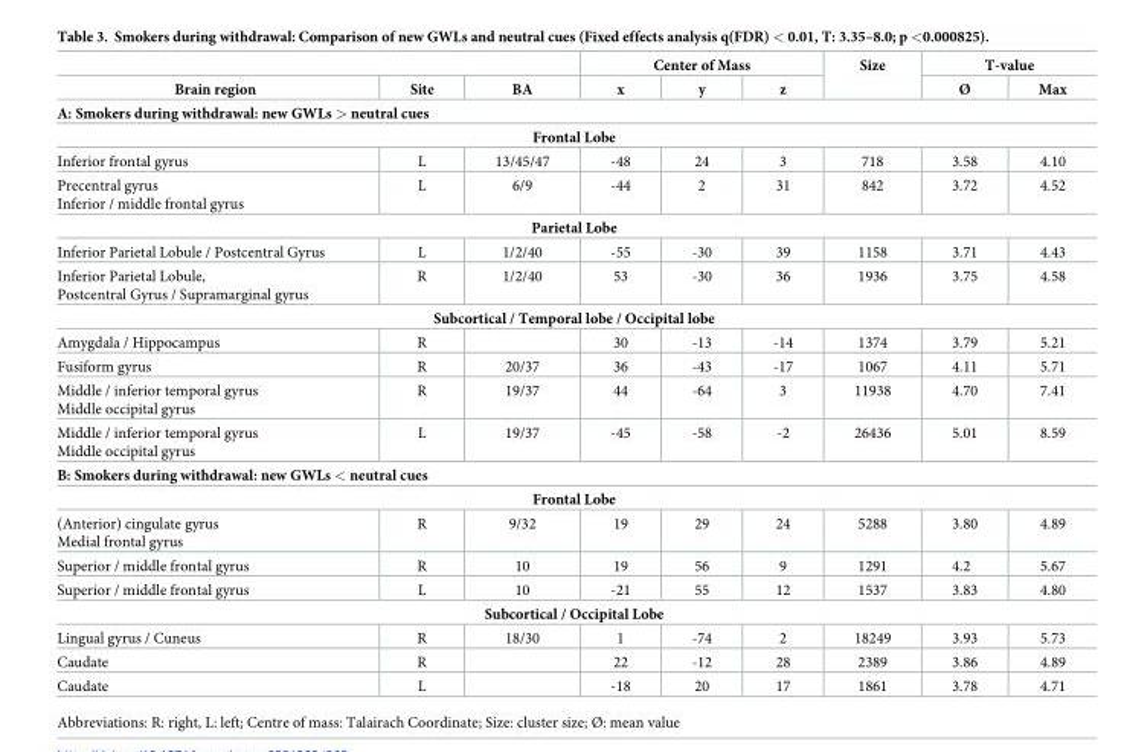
<table><thead><tr><td rowspan="2">Brain region</td><td rowspan="2">Site</td><td rowspan="2">BA</td><td colspan="3">Center of Mass</td><td rowspan="2">Size</td><td colspan="2">T-value</td></tr><tr><td>x</td><td>y</td><td>z</td><td>Ø</td><td>Max</td></tr></thead><tbody><tr><td colspan="9">A: Smokers during withdrawal: new GWLs &gt; neutral cues</td></tr><tr><td colspan="9">Frontal Lobe</td></tr><tr><td>Inferior frontal gyrus</td><td>L</td><td>13/45/47</td><td>-48</td><td>24</td><td>3</td><td>718</td><td>3.58</td><td>4.10</td></tr><tr><td>Precentral gyrus Inferior / middle frontal gyrus</td><td>L</td><td>6/9</td><td>-44</td><td>2</td><td>31</td><td>842</td><td>3.72</td><td>4.52</td></tr><tr><td colspan="9">Parietal Lobe</td></tr><tr><td>Inferior Parietal Lobule / Postcentral Gyrus</td><td>L</td><td>1/2/40</td><td>-55</td><td>-30</td><td>39</td><td>1158</td><td>3.71</td><td>4.43</td></tr><tr><td>Inferior Parietal Lobule, Postcentral Gyrus / Supramarginal gyrus</td><td>R</td><td>1/2/40</td><td>53</td><td>-30</td><td>36</td><td>1936</td><td>3.75</td><td>4.58</td></tr><tr><td colspan="9">Subcortical / Temporal lobe / Occipital lobe</td></tr><tr><td>Amygdala / Hippocampus</td><td>R</td><td></td><td>30</td><td>-13</td><td>-14</td><td>1374</td><td>3.79</td><td>5.21</td></tr><tr><td>Fusiform gyrus</td><td>R</td><td>20/37</td><td>36</td><td>-43</td><td>-17</td><td>1067</td><td>4.11</td><td>5.71</td></tr><tr><td>Middle / inferior temporal gyrus Middle occipital gyrus</td><td>R</td><td>19/37</td><td>44</td><td>-64</td><td>3</td><td>11938</td><td>4.70</td><td>7.41</td></tr><tr><td>Middle / inferior temporal gyrus Middle occipital gyrus</td><td>L</td><td>19/37</td><td>-45</td><td>-58</td><td>-2</td><td>26436</td><td>5.01</td><td>8.59</td></tr><tr><td colspan="9">B: Smokers during withdrawal: new GWLs &lt; neutral cues</td></tr><tr><td colspan="9">Frontal Lobe</td></tr><tr><td>(Anterior) cingulate gyrus Medial frontal gyrus</td><td>R</td><td>9/32</td><td>19</td><td>29</td><td>24</td><td>5288</td><td>3.80</td><td>4.89</td></tr><tr><td>Superior / middle frontal gyrus</td><td>R</td><td>10</td><td>19</td><td>56</td><td>9</td><td>1291</td><td>4.2</td><td>5.67</td></tr><tr><td>Superior / middle frontal gyrus</td><td>L</td><td>10</td><td>-21</td><td>55</td><td>12</td><td>1537</td><td>3.83</td><td>4.80</td></tr><tr><td colspan="9">Subcortical / Occipital Lobe</td></tr><tr><td>Lingual gyrus / Cuneus</td><td>R</td><td>18/30</td><td>1</td><td>-74</td><td>2</td><td>18249</td><td>3.93</td><td>5.73</td></tr><tr><td>Caudate</td><td>R</td><td></td><td>22</td><td>-12</td><td>28</td><td>2389</td><td>3.86</td><td>4.89</td></tr><tr><td>Caudate</td><td>L</td><td></td><td>-18</td><td>20</td><td>17</td><td>1861</td><td>3.78</td><td>4.71</td></tr></tbody></table>